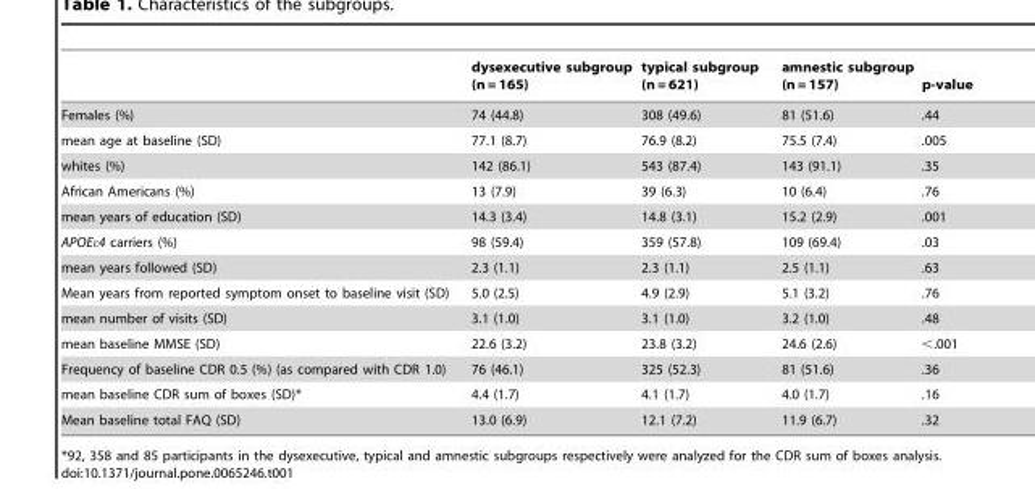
<table><thead><tr><td></td><td>dysexecutive subgroup (n = 165)</td><td>typical subgroup (n = 621)</td><td>amnestic subgroup (n = 157)</td><td>p-value</td></tr></thead><tbody><tr><td>Females (%)</td><td>74 (44.8)</td><td>308 (49.6)</td><td>81 (51.6)</td><td>.44</td></tr><tr><td>mean age at baseline (SD)</td><td>77.1 (8.7)</td><td>76.9 (8.2)</td><td>75.5 (7.4)</td><td>.005</td></tr><tr><td>whites (%)</td><td>142 (86.1)</td><td>543 (87.4)</td><td>143 (91.1)</td><td>.35</td></tr><tr><td>African Americans (%)</td><td>13 (7.9)</td><td>39 (6.3)</td><td>10 (6.4)</td><td>.76</td></tr><tr><td>mean years of education (SD)</td><td>14.3 (3.4)</td><td>14.8 (3.1)</td><td>15.2 (2.9)</td><td>.001</td></tr><tr><td>APOEε4 carriers (%)</td><td>98 (59.4)</td><td>359 (57.8)</td><td>109 (69.4)</td><td>.03</td></tr><tr><td>mean years followed (SD)</td><td>2.3 (1.1)</td><td>2.3 (1.1)</td><td>2.5 (1.1)</td><td>.63</td></tr><tr><td>Mean years from reported symptom onset to baseline visit (SD)</td><td>5.0 (2.5)</td><td>4.9 (2.9)</td><td>5.1 (3.2)</td><td>.76</td></tr><tr><td>mean number of visits (SD)</td><td>3.1 (1.0)</td><td>3.1 (1.0)</td><td>3.2 (1.0)</td><td>.48</td></tr><tr><td>mean baseline MMSE (SD)</td><td>22.6 (3.2)</td><td>23.8 (3.2)</td><td>24.6 (2.6)</td><td>&lt;.001</td></tr><tr><td>Frequency of baseline CDR 0.5 (%) (as compared with CDR 1.0)</td><td>76 (46.1)</td><td>325 (52.3)</td><td>81 (51.6)</td><td>.36</td></tr><tr><td>mean baseline CDR sum of boxes (SD)*</td><td>4.4 (1.7)</td><td>4.1 (1.7)</td><td>4.0 (1.7)</td><td>.16</td></tr><tr><td>Mean baseline total FAQ (SD)</td><td>13.0 (6.9)</td><td>12.1 (7.2)</td><td>11.9 (6.7)</td><td>.32</td></tr></tbody></table>